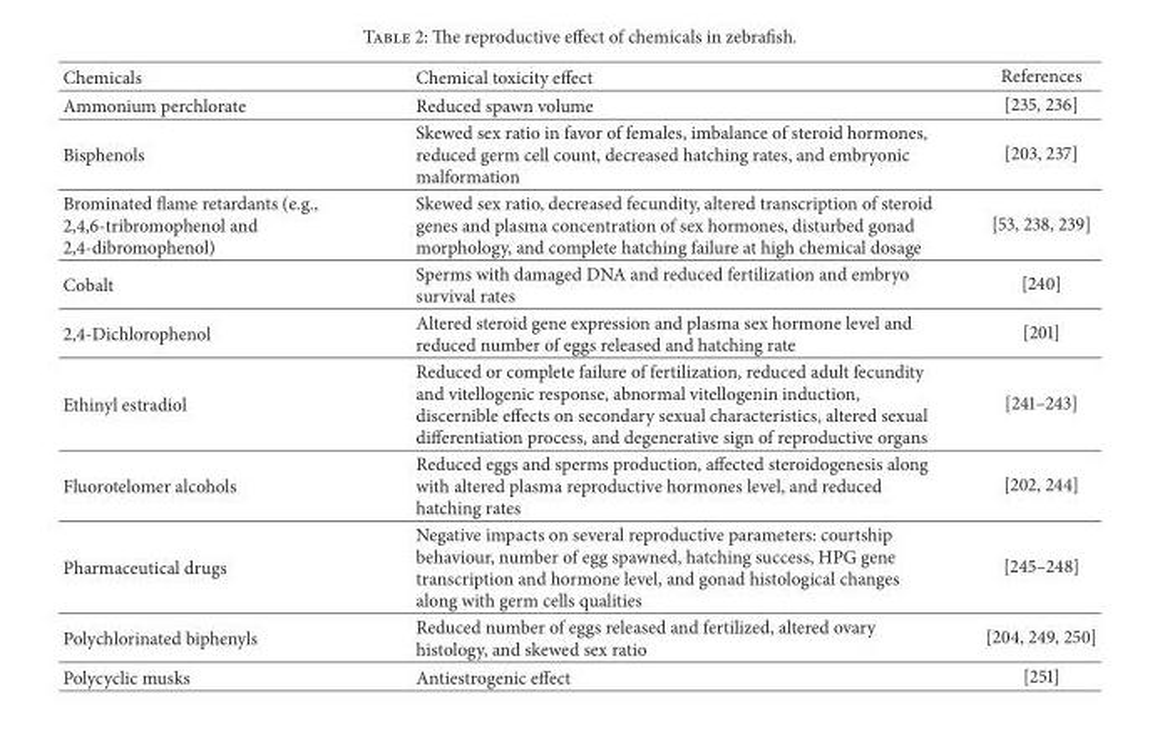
<table><thead><tr><td>Chemicals</td><td>Chemical toxicity effect</td><td>References</td></tr></thead><tbody><tr><td>Ammonium perchlorate</td><td>Reduced spawn volume</td><td>[235, 236]</td></tr><tr><td>Bisphenols</td><td>Skewed sex ratio in favor of females, imbalance of steroid hormones, reduced germ cell count, decreased hatching rates, and embryonic malformation</td><td>[203, 237]</td></tr><tr><td>Brominated flame retardants (e.g., 2,4,6-tribromophenol and 2,4-dibromophenol)</td><td>Skewed sex ratio, decreased fecundity, altered transcription of steroid genes and plasma concentration of sex hormones, disturbed gonad morphology, and complete hatching failure at high chemical dosage</td><td>[53, 238, 239]</td></tr><tr><td>Cobalt</td><td>Sperms with damaged DNA and reduced fertilization and embryo survival rates</td><td>[240]</td></tr><tr><td>2,4-Dichlorophenol</td><td>Altered steroid gene expression and plasma sex hormone level and reduced number of eggs released and hatching rate</td><td>[201]</td></tr><tr><td>Ethinyl estradiol</td><td>Reduced or complete failure of fertilization, reduced adult fecundity and vitellogenic response, abnormal vitellogenin induction, discernible effects on secondary sexual characteristics, altered sexual differentiation process, and degenerative sign of reproductive organs</td><td>[241–243]</td></tr><tr><td>Fluorotelomer alcohols</td><td>Reduced eggs and sperms production, affected steroidogenesis along with altered plasma reproductive hormones level, and reduced hatching rates</td><td>[202, 244]</td></tr><tr><td>Pharmaceutical drugs</td><td>Negative impacts on several reproductive parameters: courtship behaviour, number of egg spawned, hatching success, HPG gene transcription and hormone level, and gonad histological changes along with germ cells qualities</td><td>[245–248]</td></tr><tr><td>Polychlorinated biphenyls</td><td>Reduced number of eggs released and fertilized, altered ovary histology, and skewed sex ratio</td><td>[204, 249, 250]</td></tr><tr><td>Polycyclic musks</td><td>Antiestrogenic effect</td><td>[251]</td></tr></tbody></table>